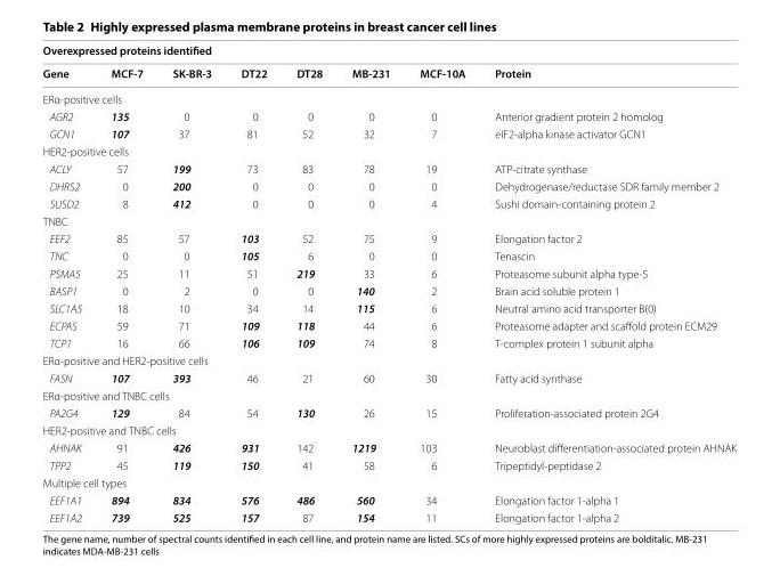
<table><thead><tr><td colspan="8">Overexpressed proteins identified</td></tr><tr><td>Gene</td><td>MCF‑7</td><td>SK‑BR‑3</td><td>DT22</td><td>DT28</td><td>MB‑231</td><td>MCF‑10A</td><td>Protein</td></tr></thead><tbody><tr><td colspan="8">ERα-positive cells</td></tr><tr><td>AGR2</td><td>135</td><td>0</td><td>0</td><td>0</td><td>0</td><td>0</td><td>Anterior gradient protein 2 homolog</td></tr><tr><td>GCN1</td><td>107</td><td>37</td><td>81</td><td>52</td><td>32</td><td>7</td><td>eIF2-alpha kinase activator GCN1</td></tr><tr><td colspan="8">HER2-positive cells</td></tr><tr><td>ACLY</td><td>57</td><td>199</td><td>73</td><td>83</td><td>78</td><td>19</td><td>ATP-citrate synthase</td></tr><tr><td>DHRS2</td><td>0</td><td>200</td><td>0</td><td>0</td><td>0</td><td>0</td><td>Dehydrogenase/reductase SDR family member 2</td></tr><tr><td>SUSD2</td><td>8</td><td>412</td><td>0</td><td>0</td><td>0</td><td>4</td><td>Sushi domain-containing protein 2</td></tr><tr><td colspan="8">TNBC</td></tr><tr><td>EEF2</td><td>85</td><td>57</td><td>103</td><td>52</td><td>75</td><td>9</td><td>Elongation factor 2</td></tr><tr><td>TNC</td><td>0</td><td>0</td><td>105</td><td>6</td><td>0</td><td>0</td><td>Tenascin</td></tr><tr><td>PSMA5</td><td>25</td><td>11</td><td>51</td><td>219</td><td>33</td><td>6</td><td>Proteasome subunit alpha type-5</td></tr><tr><td>BASP1</td><td>0</td><td>2</td><td>0</td><td>0</td><td>140</td><td>2</td><td>Brain acid soluble protein 1</td></tr><tr><td>SLC1A5</td><td>18</td><td>10</td><td>34</td><td>14</td><td>115</td><td>6</td><td>Neutral amino acid transporter B(0)</td></tr><tr><td>ECPAS</td><td>59</td><td>71</td><td>109</td><td>118</td><td>44</td><td>6</td><td>Proteasome adapter and scaffold protein ECM29</td></tr><tr><td>TCP1</td><td>16</td><td>66</td><td>106</td><td>109</td><td>74</td><td>8</td><td>T-complex protein 1 subunit alpha</td></tr><tr><td colspan="8">ERα-positive and HER2-positive cells</td></tr><tr><td>FASN</td><td>107</td><td>393</td><td>46</td><td>21</td><td>60</td><td>30</td><td>Fatty acid synthase</td></tr><tr><td colspan="8">ERα-positive and TNBC cells</td></tr><tr><td>PA2G4</td><td>129</td><td>84</td><td>54</td><td>130</td><td>26</td><td>15</td><td>Proliferation-associated protein 2G4</td></tr><tr><td colspan="8">HER2-positive and TNBC cells</td></tr><tr><td>AHNAK</td><td>91</td><td>426</td><td>931</td><td>142</td><td>1219</td><td>103</td><td>Neuroblast differentiation-associated protein AHNAK</td></tr><tr><td>TPP2</td><td>45</td><td>119</td><td>150</td><td>41</td><td>58</td><td>6</td><td>Tripeptidyl-peptidase 2</td></tr><tr><td colspan="8">Multiple cell types</td></tr><tr><td>EEF1A1</td><td>894</td><td>834</td><td>576</td><td>486</td><td>560</td><td>34</td><td>Elongation factor 1-alpha 1</td></tr><tr><td>EEF1A2</td><td>739</td><td>525</td><td>157</td><td>87</td><td>154</td><td>11</td><td>Elongation factor 1-alpha 2</td></tr></tbody></table>